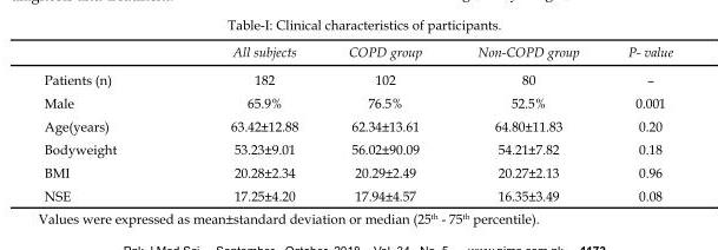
<table><thead><tr><td></td><td>All subjects</td><td>COPD group</td><td>Non-COPD group</td><td>P- value</td></tr></thead><tbody><tr><td>Patients (n)</td><td>182</td><td>102</td><td>80</td><td>–</td></tr><tr><td>Male</td><td>65.9%</td><td>76.5%</td><td>52.5%</td><td>0.001</td></tr><tr><td>Age(years)</td><td>63.42±12.88</td><td>62.34±13.61</td><td>64.80±11.83</td><td>0.20</td></tr><tr><td>Bodyweight</td><td>53.23±9.01</td><td>56.02±90.09</td><td>54.21±7.82</td><td>0.18</td></tr><tr><td>BMI</td><td>20.28±2.34</td><td>20.29±2.49</td><td>20.27±2.13</td><td>0.96</td></tr><tr><td>NSE</td><td>17.25±4.20</td><td>17.94±4.57</td><td>16.35±3.49</td><td>0.08</td></tr></tbody></table>